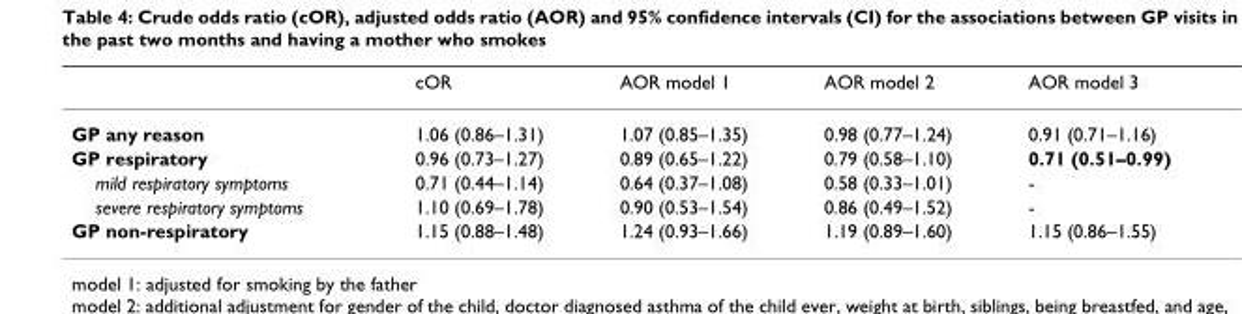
<table><thead><tr><td></td><td>cOR</td><td>AOR model 1</td><td>AOR model 2</td><td>AOR model 3</td></tr></thead><tbody><tr><td>GP any reason</td><td>1.06 (0.86–1.31)</td><td>1.07 (0.85–1.35)</td><td>0.98 (0.77–1.24)</td><td>0.91 (0.71–1.16)</td></tr><tr><td>GP respiratory</td><td>0.96 (0.73–1.27)</td><td>0.89 (0.65–1.22)</td><td>0.79 (0.58–1.10)</td><td>0.71 (0.51–0.99)</td></tr><tr><td>mild respiratory symptoms</td><td>0.71 (0.44–1.14)</td><td>0.64 (0.37–1.08)</td><td>0.58 (0.33–1.01)</td><td>-</td></tr><tr><td>severe respiratory symptoms</td><td>1.10 (0.69–1.78)</td><td>0.90 (0.53–1.54)</td><td>0.86 (0.49–1.52)</td><td>-</td></tr><tr><td>GP non-respiratory</td><td>1.15 (0.88–1.48)</td><td>1.24 (0.93–1.66)</td><td>1.19 (0.89–1.60)</td><td>1.15 (0.86–1.55)</td></tr></tbody></table>